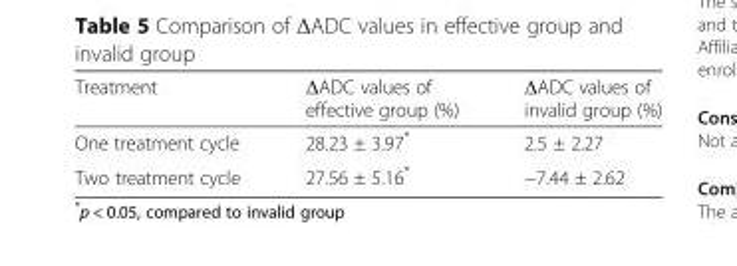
<table><thead><tr><td>Treatment</td><td>ΔADC values of effective group (%)</td><td>ΔADC values of invalid group (%)</td></tr></thead><tbody><tr><td>One treatment cycle</td><td>28.23 ± 3.97*</td><td>2.5 ± 2.27</td></tr><tr><td>Two treatment cycle</td><td>27.56 ± 5.16*</td><td>−7.44 ± 2.62</td></tr></tbody></table>